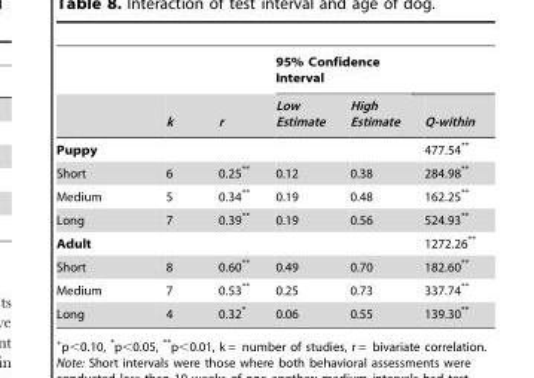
<table><thead><tr><td rowspan="2"></td><td rowspan="2">k</td><td rowspan="2">r</td><td colspan="2">95% Confidence Interval</td><td rowspan="2">Q-within</td></tr><tr><td>Low Estimate</td><td>High Estimate</td></tr></thead><tbody><tr><td>Puppy</td><td></td><td></td><td></td><td></td><td>477.54**</td></tr><tr><td>Short</td><td>6</td><td>0.25**</td><td>0.12</td><td>0.38</td><td>284.98**</td></tr><tr><td>Medium</td><td>5</td><td>0.34**</td><td>0.19</td><td>0.48</td><td>162.25**</td></tr><tr><td>Long</td><td>7</td><td>0.39**</td><td>0.19</td><td>0.56</td><td>524.93**</td></tr><tr><td>Adult</td><td></td><td></td><td></td><td></td><td>1272.26**</td></tr><tr><td>Short</td><td>8</td><td>0.60**</td><td>0.49</td><td>0.70</td><td>182.60**</td></tr><tr><td>Medium</td><td>7</td><td>0.53**</td><td>0.25</td><td>0.73</td><td>337.74**</td></tr><tr><td>Long</td><td>4</td><td>0.32*</td><td>0.06</td><td>0.55</td><td>139.30**</td></tr></tbody></table>